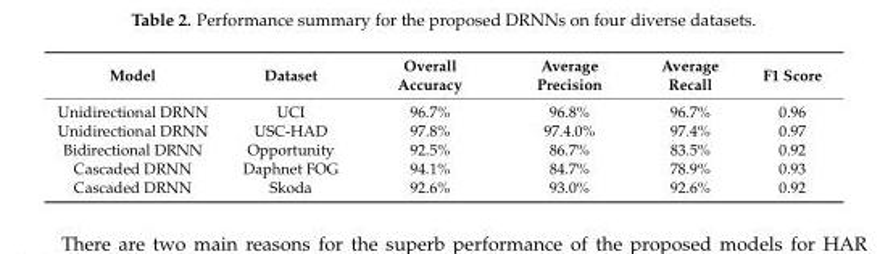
<table><thead><tr><td>Model</td><td>Dataset</td><td>Overall Accuracy</td><td>Average Precision</td><td>Average Recall</td><td>F1 Score</td></tr></thead><tbody><tr><td>Unidirectional DRNN</td><td>UCI</td><td>96.7%</td><td>96.8%</td><td>96.7%</td><td>0.96</td></tr><tr><td>Unidirectional DRNN</td><td>USC-HAD</td><td>97.8%</td><td>97.4.0%</td><td>97.4%</td><td>0.97</td></tr><tr><td>Bidirectional DRNN</td><td>Opportunity</td><td>92.5%</td><td>86.7%</td><td>83.5%</td><td>0.92</td></tr><tr><td>Cascaded DRNN</td><td>Daphnet FOG</td><td>94.1%</td><td>84.7%</td><td>78.9%</td><td>0.93</td></tr><tr><td>Cascaded DRNN</td><td>Skoda</td><td>92.6%</td><td>93.0%</td><td>92.6%</td><td>0.92</td></tr></tbody></table>